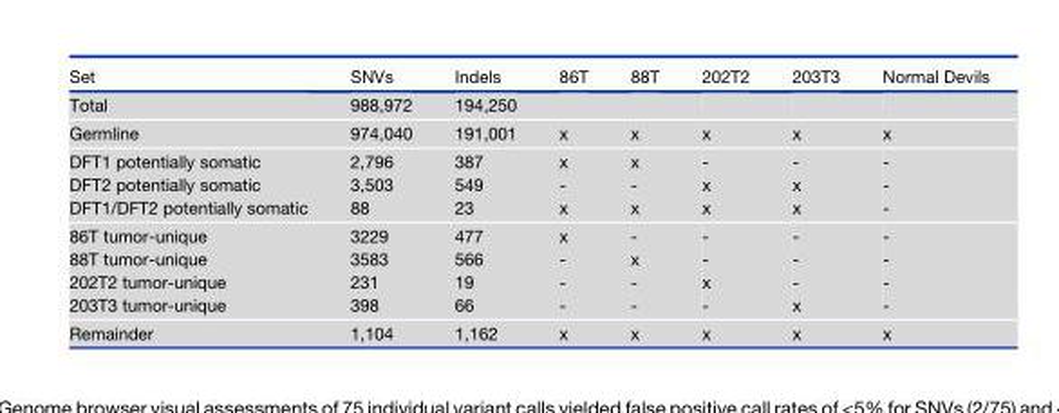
<table><thead><tr><td>Set</td><td>SNVs</td><td>Indels</td><td>86T</td><td>88T</td><td>202T2</td><td>203T3</td><td>Normal Devils</td></tr></thead><tbody><tr><td>Total</td><td>988,972</td><td>194,250</td><td></td><td></td><td></td><td></td><td></td></tr><tr><td>Germline</td><td>974,040</td><td>191,001</td><td>x</td><td>x</td><td>x</td><td>x</td><td>x</td></tr><tr><td>DFT1 potentially somatic DFT2 potentially somatic DFT1/DFT2 potentially somatic</td><td>2,796 3,503 88</td><td>387 549 23</td><td>x - x</td><td>x - x</td><td>- x x</td><td>- x x</td><td>- - -</td></tr><tr><td>86T tumor-unique 88T tumor-unique 202T2 tumor-unique 203T3 tumor-unique</td><td>3229 3583 231 398</td><td>477 566 19 66</td><td>x - - -</td><td>- x - -</td><td>- - x -</td><td>- - - x</td><td>- - - -</td></tr><tr><td>Remainder</td><td>1,104</td><td>1,162</td><td>x</td><td>x</td><td>x</td><td>x</td><td>x</td></tr></tbody></table>